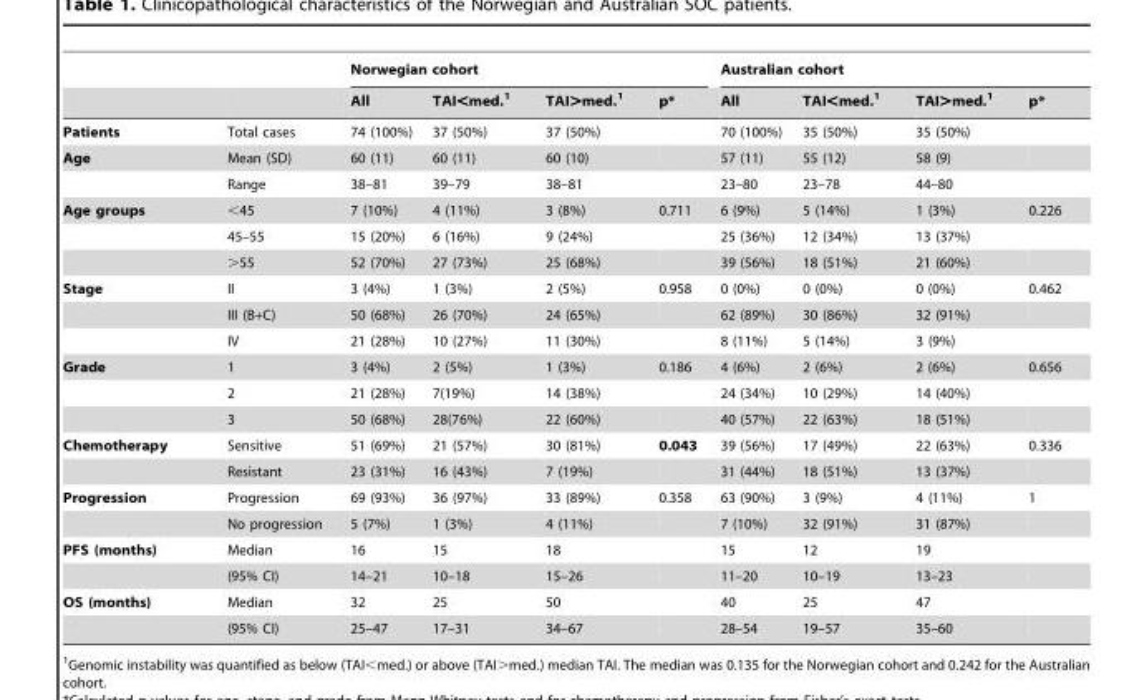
<table><thead><tr><td rowspan="2"></td><td rowspan="2"></td><td colspan="4">Norwegian cohort</td><td colspan="4">Australian cohort</td></tr><tr><td>All</td><td>TAI&lt;med.<sup>1</sup></td><td>TAI&gt;med.<sup>1</sup></td><td>p*</td><td>All</td><td>TAI&lt;med.<sup>1</sup></td><td>TAI&gt;med.<sup>1</sup></td><td>p*</td></tr></thead><tbody><tr><td>Patients</td><td>Total cases</td><td>74 (100%)</td><td>37 (50%)</td><td>37 (50%)</td><td></td><td>70 (100%)</td><td>35 (50%)</td><td>35 (50%)</td><td></td></tr><tr><td rowspan="2">Age</td><td>Mean (SD)</td><td>60 (11)</td><td>60 (11)</td><td>60 (10)</td><td></td><td>57 (11)</td><td>55 (12)</td><td>58 (9)</td><td></td></tr><tr><td>Range</td><td>38–81</td><td>39–79</td><td>38–81</td><td></td><td>23–80</td><td>23–78</td><td>44–80</td><td></td></tr><tr><td rowspan="3">Age groups</td><td>&lt;45</td><td>7 (10%)</td><td>4 (11%)</td><td>3 (8%)</td><td>0.711</td><td>6 (9%)</td><td>5 (14%)</td><td>1 (3%)</td><td>0.226</td></tr><tr><td>45–55</td><td>15 (20%)</td><td>6 (16%)</td><td>9 (24%)</td><td></td><td>25 (36%)</td><td>12 (34%)</td><td>13 (37%)</td><td></td></tr><tr><td>&gt;55</td><td>52 (70%)</td><td>27 (73%)</td><td>25 (68%)</td><td></td><td>39 (56%)</td><td>18 (51%)</td><td>21 (60%)</td><td></td></tr><tr><td rowspan="3">Stage</td><td>II</td><td>3 (4%)</td><td>1 (3%)</td><td>2 (5%)</td><td>0.958</td><td>0 (0%)</td><td>0 (0%)</td><td>0 (0%)</td><td>0.462</td></tr><tr><td>III (B+C)</td><td>50 (68%)</td><td>26 (70%)</td><td>24 (65%)</td><td></td><td>62 (89%)</td><td>30 (86%)</td><td>32 (91%)</td><td></td></tr><tr><td>IV</td><td>21 (28%)</td><td>10 (27%)</td><td>11 (30%)</td><td></td><td>8 (11%)</td><td>5 (14%)</td><td>3 (9%)</td><td></td></tr><tr><td rowspan="3">Grade</td><td>1</td><td>3 (4%)</td><td>2 (5%)</td><td>1 (3%)</td><td>0.186</td><td>4 (6%)</td><td>2 (6%)</td><td>2 (6%)</td><td>0.656</td></tr><tr><td>2</td><td>21 (28%)</td><td>7(19%)</td><td>14 (38%)</td><td></td><td>24 (34%)</td><td>10 (29%)</td><td>14 (40%)</td><td></td></tr><tr><td>3</td><td>50 (68%)</td><td>28(76%)</td><td>22 (60%)</td><td></td><td>40 (57%)</td><td>22 (63%)</td><td>18 (51%)</td><td></td></tr><tr><td rowspan="2">Chemotherapy</td><td>Sensitive</td><td>51 (69%)</td><td>21 (57%)</td><td>30 (81%)</td><td>0.043</td><td>39 (56%)</td><td>17 (49%)</td><td>22 (63%)</td><td>0.336</td></tr><tr><td>Resistant</td><td>23 (31%)</td><td>16 (43%)</td><td>7 (19%)</td><td></td><td>31 (44%)</td><td>18 (51%)</td><td>13 (37%)</td><td></td></tr><tr><td rowspan="2">Progression</td><td>Progression</td><td>69 (93%)</td><td>36 (97%)</td><td>33 (89%)</td><td>0.358</td><td>63 (90%)</td><td>3 (9%)</td><td>4 (11%)</td><td>1</td></tr><tr><td>No progression</td><td>5 (7%)</td><td>1 (3%)</td><td>4 (11%)</td><td></td><td>7 (10%)</td><td>32 (91%)</td><td>31 (87%)</td><td></td></tr><tr><td rowspan="2">PFS (months)</td><td>Median</td><td>16</td><td>15</td><td>18</td><td></td><td>15</td><td>12</td><td>19</td><td></td></tr><tr><td>(95% CI)</td><td>14–21</td><td>10–18</td><td>15–26</td><td></td><td>11–20</td><td>10–19</td><td>13–23</td><td></td></tr><tr><td rowspan="2">OS (months)</td><td>Median</td><td>32</td><td>25</td><td>50</td><td></td><td>40</td><td>25</td><td>47</td><td></td></tr><tr><td>(95% CI)</td><td>25–47</td><td>17–31</td><td>34–67</td><td></td><td>28–54</td><td>19–57</td><td>35–60</td><td></td></tr></tbody></table>